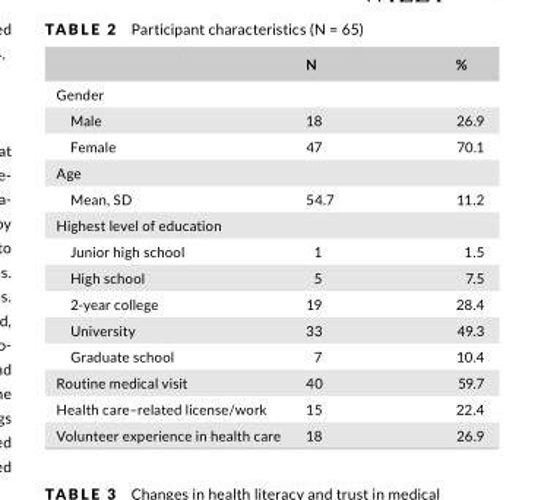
<table><thead><tr><td></td><td>N</td><td>%</td></tr></thead><tbody><tr><td colspan="3">Gender</td></tr><tr><td>Male</td><td>18</td><td>26.9</td></tr><tr><td>Female</td><td>47</td><td>70.1</td></tr><tr><td colspan="3">Age</td></tr><tr><td>Mean, SD</td><td>54.7</td><td>11.2</td></tr><tr><td colspan="3">Highest level of education</td></tr><tr><td>Junior high school</td><td>1</td><td>1.5</td></tr><tr><td>High school</td><td>5</td><td>7.5</td></tr><tr><td>2- year college</td><td>19</td><td>28.4</td></tr><tr><td>University</td><td>33</td><td>49.3</td></tr><tr><td>Graduate school</td><td>7</td><td>10.4</td></tr><tr><td>Routine medical visit</td><td>40</td><td>59.7</td></tr><tr><td>Health care–related license/work</td><td>15</td><td>22.4</td></tr><tr><td>Volunteer experience in health care</td><td>18</td><td>26.9</td></tr></tbody></table>